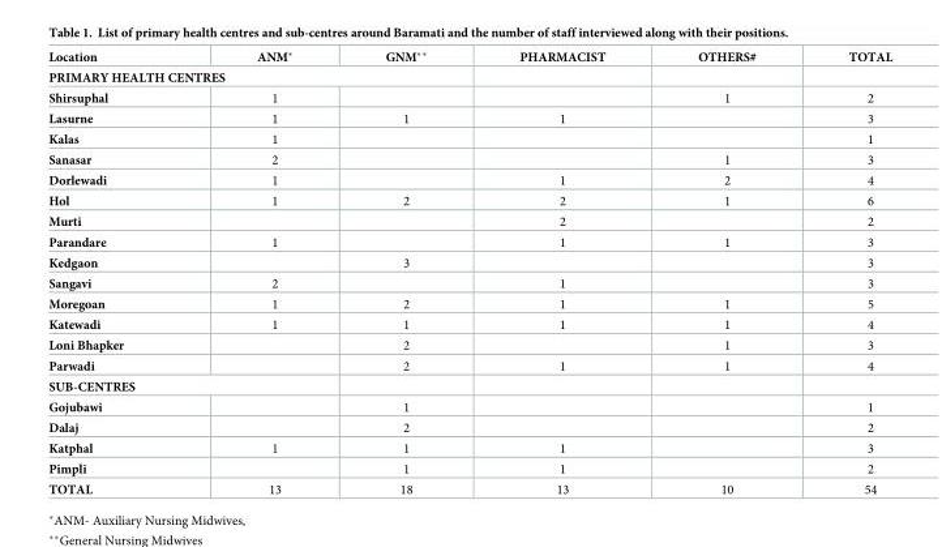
<table><thead><tr><td>Location</td><td>ANM*</td><td>GNM**</td><td>PHARMACIST</td><td>OTHERS#</td><td>TOTAL</td></tr></thead><tbody><tr><td colspan="6">PRIMARY HEALTH CENTRES</td></tr><tr><td>Shirsuphal</td><td>1</td><td></td><td></td><td>1</td><td>2</td></tr><tr><td>Lasurne</td><td>1</td><td>1</td><td>1</td><td></td><td>3</td></tr><tr><td>Kalas</td><td>1</td><td></td><td></td><td></td><td>1</td></tr><tr><td>Sanasar</td><td>2</td><td></td><td></td><td>1</td><td>3</td></tr><tr><td>Dorlewadi</td><td>1</td><td></td><td>1</td><td>2</td><td>4</td></tr><tr><td>Hol</td><td>1</td><td>2</td><td>2</td><td>1</td><td>6</td></tr><tr><td>Murti</td><td></td><td></td><td>2</td><td></td><td>2</td></tr><tr><td>Parandare</td><td>1</td><td></td><td>1</td><td>1</td><td>3</td></tr><tr><td>Kedgaon</td><td></td><td>3</td><td></td><td></td><td>3</td></tr><tr><td>Sangavi</td><td>2</td><td></td><td>1</td><td></td><td>3</td></tr><tr><td>Moregoan</td><td>1</td><td>2</td><td>1</td><td>1</td><td>5</td></tr><tr><td>Katewadi</td><td>1</td><td>1</td><td>1</td><td>1</td><td>4</td></tr><tr><td>Loni Bhapker</td><td></td><td>2</td><td></td><td>1</td><td>3</td></tr><tr><td>Parwadi</td><td></td><td>2</td><td>1</td><td>1</td><td>4</td></tr><tr><td colspan="6">SUB-CENTRES</td></tr><tr><td>Gojubawi</td><td></td><td>1</td><td></td><td></td><td>1</td></tr><tr><td>Dalaj</td><td></td><td>2</td><td></td><td></td><td>2</td></tr><tr><td>Katphal</td><td>1</td><td>1</td><td>1</td><td></td><td>3</td></tr><tr><td>Pimpli</td><td></td><td>1</td><td>1</td><td></td><td>2</td></tr><tr><td>TOTAL</td><td>13</td><td>18</td><td>13</td><td>10</td><td>54</td></tr></tbody></table>